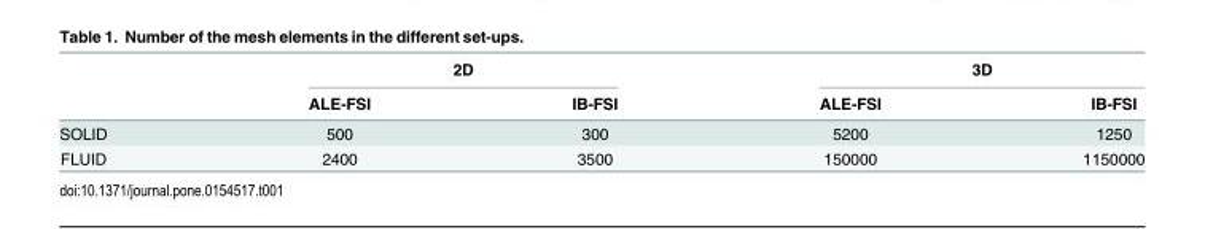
<table><thead><tr><td rowspan="2"></td><td colspan="2">2D</td><td colspan="2">3D</td></tr><tr><td>ALE-FSI</td><td>IB-FSI</td><td>ALE-FSI</td><td>IB-FSI</td></tr></thead><tbody><tr><td>SOLID</td><td>500</td><td>300</td><td>5200</td><td>1250</td></tr><tr><td>FLUID</td><td>2400</td><td>3500</td><td>150000</td><td>1150000</td></tr></tbody></table>